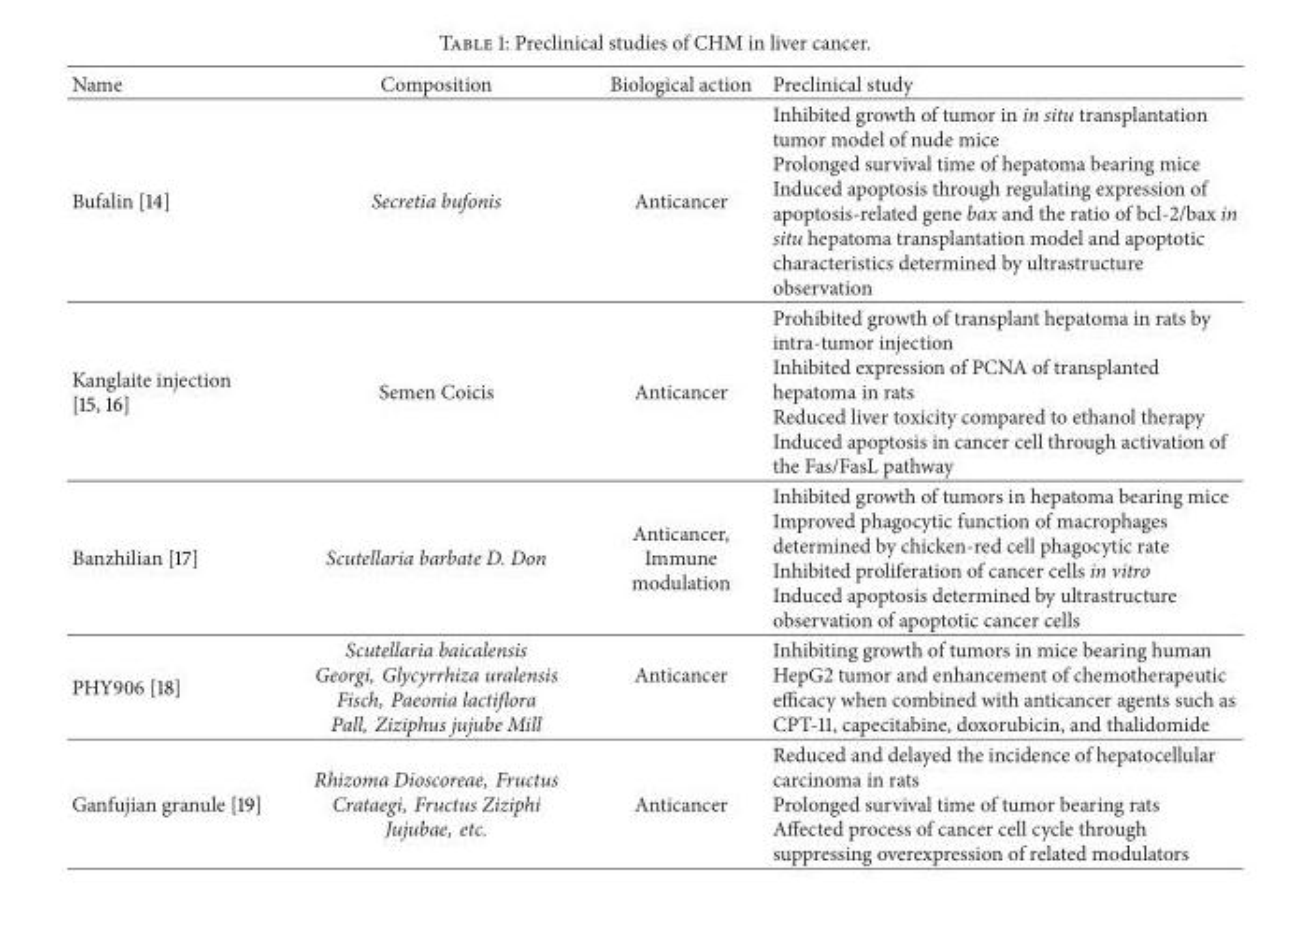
<table><thead><tr><td>Name</td><td>Composition</td><td>Biological action</td><td>Preclinical study</td></tr></thead><tbody><tr><td>Bufalin [14]</td><td>Secretia bufonis</td><td>Anticancer</td><td>Inhibited growth of tumor in in situ transplantation tumor model of nude mice Prolonged survival time of hepatoma bearing mice Induced apoptosis through regulating expression of apoptosis-related gene bax and the ratio of bcl-2/bax in situ hepatoma transplantation model and apoptotic characteristics determined by ultrastructure observation</td></tr><tr><td>Kanglaite injection [15, 16]</td><td>Semen Coicis</td><td>Anticancer</td><td>Prohibited growth of transplant hepatoma in rats by intra-tumor injection Inhibited expression of PCNA of transplanted hepatoma in rats Reduced liver toxicity compared to ethanol therapy Induced apoptosis in cancer cell through activation of the Fas/FasL pathway</td></tr><tr><td>Banzhilian [17]</td><td>Scutellaria barbate D. Don</td><td>Anticancer, Immune modulation</td><td>Inhibited growth of tumors in hepatoma bearing mice Improved phagocytic function of macrophages determined by chicken-red cell phagocytic rate Inhibited proliferation of cancer cells in vitro Induced apoptosis determined by ultrastructure observation of apoptotic cancer cells</td></tr><tr><td>PHY906 [18]</td><td>Scutellaria baicalensis Georgi, Glycyrrhiza uralensis Fisch, Paeonia lactiflora Pall, Ziziphus jujube Mill</td><td>Anticancer</td><td>Inhibiting growth of tumors in mice bearing human HepG2 tumor and enhancement of chemotherapeutic efficacy when combined with anticancer agents such as CPT-11, capecitabine, doxorubicin, and thalidomide</td></tr><tr><td>Ganfujian granule [19]</td><td>Rhizoma Dioscoreae, Fructus Crataegi, Fructus Ziziphi Jujubae, etc.</td><td>Anticancer</td><td>Reduced and delayed the incidence of hepatocellular carcinoma in rats Prolonged survival time of tumor bearing rats Affected process of cancer cell cycle through suppressing overexpression of related modulators</td></tr></tbody></table>